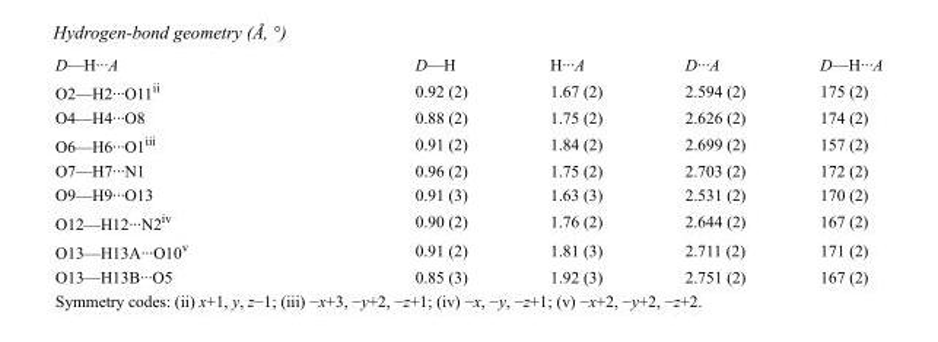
<table><tbody><tr><td>D—H···A</td><td>D—H</td><td>H···A</td><td>D···A</td><td>D—H···A</td></tr><tr><td>O2—H2···O11<sup>ii</sup></td><td>0.92 (2)</td><td>1.67 (2)</td><td>2.594 (2)</td><td>175 (2)</td></tr><tr><td>O4—H4···O8</td><td>0.88 (2)</td><td>1.75 (2)</td><td>2.626 (2)</td><td>174 (2)</td></tr><tr><td>O6—H6···O1<sup>iii</sup></td><td>0.91 (2)</td><td>1.84 (2)</td><td>2.699 (2)</td><td>157 (2)</td></tr><tr><td>O7—H7···N1</td><td>0.96 (2)</td><td>1.75 (2)</td><td>2.703 (2)</td><td>172 (2)</td></tr><tr><td>O9—H9···O13</td><td>0.91 (3)</td><td>1.63 (3)</td><td>2.531 (2)</td><td>170 (2)</td></tr><tr><td>O12—H12···N2<sup>iv</sup></td><td>0.90 (2)</td><td>1.76 (2)</td><td>2.644 (2)</td><td>167 (2)</td></tr><tr><td>O13—H13A···O10<sup>v</sup></td><td>0.91 (2)</td><td>1.81 (3)</td><td>2.711 (2)</td><td>171 (2)</td></tr><tr><td>O13—H13B···O5</td><td>0.85 (3)</td><td>1.92 (3)</td><td>2.751 (2)</td><td>167 (2)</td></tr></tbody></table>